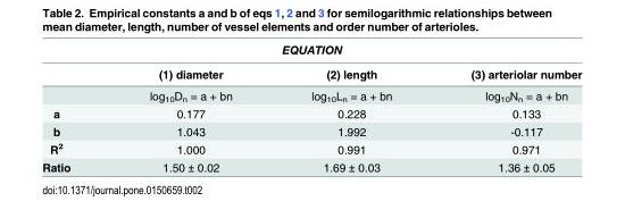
<table><thead><tr><td colspan="4">EQUATION</td></tr><tr><td></td><td>(1) diameter</td><td>(2) length</td><td>(3) arteriolar number</td></tr></thead><tbody><tr><td></td><td>log<sub>10</sub>D<sub>n</sub> = a + bn</td><td>log<sub>10</sub>L<sub>n</sub> = a + bn</td><td>log<sub>10</sub>N<sub>n</sub> = a + bn</td></tr><tr><td>a</td><td>0.177</td><td>0.228</td><td>0.133</td></tr><tr><td>b</td><td>1.043</td><td>1.992</td><td>-0.117</td></tr><tr><td>R<sup>2</sup></td><td>1.000</td><td>0.991</td><td>0.971</td></tr><tr><td>Ratio</td><td>1.50 ± 0.02</td><td>1.69 ± 0.03</td><td>1.36 ± 0.05</td></tr></tbody></table>